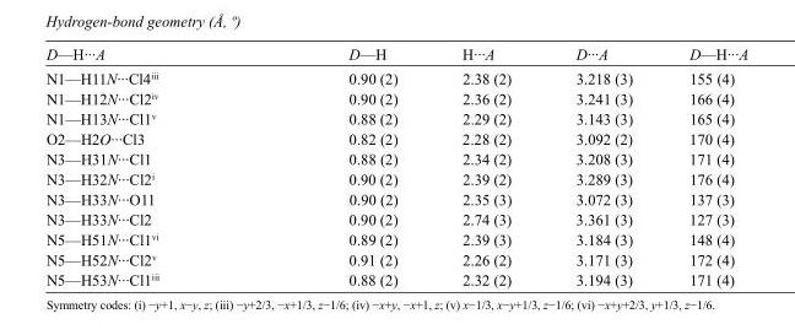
<table><tbody><tr><td>D—H···A</td><td>D—H</td><td>H···A</td><td>D···A</td><td>D—H···A</td></tr><tr><td>N1—H11N···Cl4<sup>iii</sup></td><td>0.90 (2)</td><td>2.38 (2)</td><td>3.218 (3)</td><td>155 (4)</td></tr><tr><td>N1—H12N···Cl2<sup>iv</sup></td><td>0.90 (2)</td><td>2.36 (2)</td><td>3.241 (3)</td><td>166 (4)</td></tr><tr><td>N1—H13N···Cl1<sup>v</sup></td><td>0.88 (2)</td><td>2.29 (2)</td><td>3.143 (3)</td><td>165 (4)</td></tr><tr><td>O2—H2O···Cl3</td><td>0.82 (2)</td><td>2.28 (2)</td><td>3.092 (2)</td><td>170 (4)</td></tr><tr><td>N3—H31N···Cl1</td><td>0.88 (2)</td><td>2.34 (2)</td><td>3.208 (3)</td><td>171 (4)</td></tr><tr><td>N3—H32N···Cl2<sup>i</sup></td><td>0.90 (2)</td><td>2.39 (2)</td><td>3.289 (3)</td><td>176 (4)</td></tr><tr><td>N3—H33N···O11</td><td>0.90 (2)</td><td>2.35 (3)</td><td>3.072 (3)</td><td>137 (3)</td></tr><tr><td>N3—H33N···Cl2</td><td>0.90 (2)</td><td>2.74 (3)</td><td>3.361 (3)</td><td>127 (3)</td></tr><tr><td>N5—H51N···Cl1<sup>vi</sup></td><td>0.89 (2)</td><td>2.39 (3)</td><td>3.184 (3)</td><td>148 (4)</td></tr><tr><td>N5—H52N···Cl2<sup>v</sup></td><td>0.91 (2)</td><td>2.26 (2)</td><td>3.171 (3)</td><td>172 (4)</td></tr><tr><td>N5—H53N···Cl1<sup>iii</sup></td><td>0.88 (2)</td><td>2.32 (2)</td><td>3.194 (3)</td><td>171 (4)</td></tr></tbody></table>